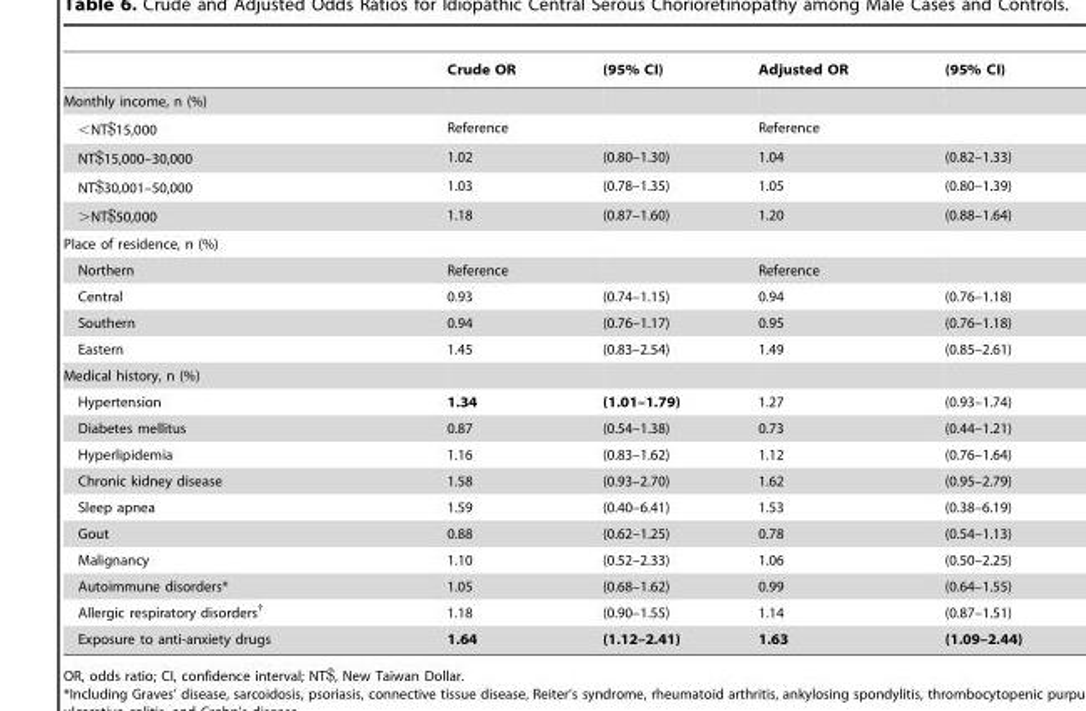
<table><thead><tr><td></td><td>Crude OR</td><td>(95% CI)</td><td>Adjusted OR</td><td>(95% CI)</td></tr></thead><tbody><tr><td colspan="5">Monthly income, n (%)</td></tr><tr><td>&lt;NT$15,000</td><td>Reference</td><td></td><td>Reference</td><td></td></tr><tr><td>NT$15,000–30,000</td><td>1.02</td><td>(0.80–1.30)</td><td>1.04</td><td>(0.82–1.33)</td></tr><tr><td>NT$30,001–50,000</td><td>1.03</td><td>(0.78–1.35)</td><td>1.05</td><td>(0.80–1.39)</td></tr><tr><td>&gt;NT$50,000</td><td>1.18</td><td>(0.87–1.60)</td><td>1.20</td><td>(0.88–1.64)</td></tr><tr><td colspan="5">Place of residence, n (%)</td></tr><tr><td>Northern</td><td>Reference</td><td></td><td>Reference</td><td></td></tr><tr><td>Central</td><td>0.93</td><td>(0.74–1.15)</td><td>0.94</td><td>(0.76–1.18)</td></tr><tr><td>Southern</td><td>0.94</td><td>(0.76–1.17)</td><td>0.95</td><td>(0.76–1.18)</td></tr><tr><td>Eastern</td><td>1.45</td><td>(0.83–2.54)</td><td>1.49</td><td>(0.85–2.61)</td></tr><tr><td colspan="5">Medical history, n (%)</td></tr><tr><td>Hypertension</td><td>1.34</td><td>(1.01–1.79)</td><td>1.27</td><td>(0.93–1.74)</td></tr><tr><td>Diabetes mellitus</td><td>0.87</td><td>(0.54–1.38)</td><td>0.73</td><td>(0.44–1.21)</td></tr><tr><td>Hyperlipidemia</td><td>1.16</td><td>(0.83–1.62)</td><td>1.12</td><td>(0.76–1.64)</td></tr><tr><td>Chronic kidney disease</td><td>1.58</td><td>(0.93–2.70)</td><td>1.62</td><td>(0.95–2.79)</td></tr><tr><td>Sleep apnea</td><td>1.59</td><td>(0.40–6.41)</td><td>1.53</td><td>(0.38–6.19)</td></tr><tr><td>Gout</td><td>0.88</td><td>(0.62–1.25)</td><td>0.78</td><td>(0.54–1.13)</td></tr><tr><td>Malignancy</td><td>1.10</td><td>(0.52–2.33)</td><td>1.06</td><td>(0.50–2.25)</td></tr><tr><td>Autoimmune disorders*</td><td>1.05</td><td>(0.68–1.62)</td><td>0.99</td><td>(0.64–1.55)</td></tr><tr><td>Allergic respiratory disorders†</td><td>1.18</td><td>(0.90–1.55)</td><td>1.14</td><td>(0.87–1.51)</td></tr><tr><td>Exposure to anti-anxiety drugs</td><td>1.64</td><td>(1.12–2.41)</td><td>1.63</td><td>(1.09–2.44)</td></tr></tbody></table>